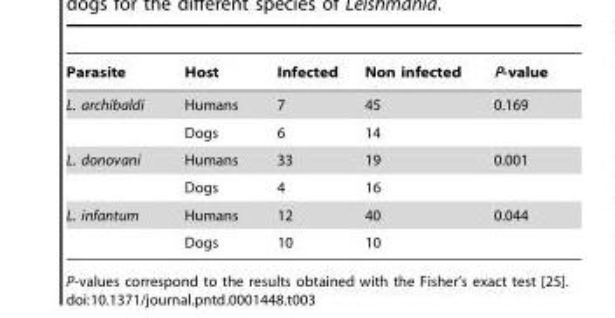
<table><thead><tr><td>Parasite</td><td>Host</td><td>Infected</td><td>Non infected</td><td>P-value</td></tr></thead><tbody><tr><td rowspan="2">L. archibaldi</td><td>Humans</td><td>7</td><td>45</td><td>0.169</td></tr><tr><td>Dogs</td><td>6</td><td>14</td><td></td></tr><tr><td rowspan="2">L. donovani</td><td>Humans</td><td>33</td><td>19</td><td>0.001</td></tr><tr><td>Dogs</td><td>4</td><td>16</td><td></td></tr><tr><td rowspan="2">L. infantum</td><td>Humans</td><td>12</td><td>40</td><td>0.044</td></tr><tr><td>Dogs</td><td>10</td><td>10</td><td></td></tr></tbody></table>